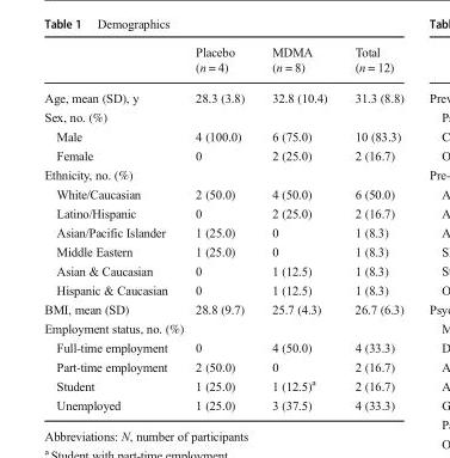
<table><thead><tr><td></td><td>Placebo (n = 4)</td><td>MDMA (n = 8)</td><td>Total (n = 12)</td></tr></thead><tbody><tr><td>Age, mean (SD), y</td><td>28.3 (3.8)</td><td>32.8 (10.4)</td><td>31.3 (8.8)</td></tr><tr><td colspan="4">Sex, no. (%)</td></tr><tr><td>Male</td><td>4 (100.0)</td><td>6 (75.0)</td><td>10 (83.3)</td></tr><tr><td>Female</td><td>0</td><td>2 (25.0)</td><td>2 (16.7)</td></tr><tr><td colspan="4">Ethnicity, no. (%)</td></tr><tr><td>White/Caucasian</td><td>2 (50.0)</td><td>4 (50.0)</td><td>6 (50.0)</td></tr><tr><td>Latino/Hispanic</td><td>0</td><td>2 (25.0)</td><td>2 (16.7)</td></tr><tr><td>Asian/Pacific Islander</td><td>1 (25.0)</td><td>0</td><td>1 (8.3)</td></tr><tr><td>Middle Eastern</td><td>1 (25.0)</td><td>0</td><td>1 (8.3)</td></tr><tr><td>Asian &amp; Caucasian</td><td>0</td><td>1 (12.5)</td><td>1 (8.3)</td></tr><tr><td>Hispanic &amp; Caucasian</td><td>0</td><td>1 (12.5)</td><td>1 (8.3)</td></tr><tr><td>BMI, mean (SD)</td><td>28.8 (9.7)</td><td>25.7 (4.3)</td><td>26.7 (6.3)</td></tr><tr><td colspan="4">Employment status, no. (%)</td></tr><tr><td>Full-time employment</td><td>0</td><td>4 (50.0)</td><td>4 (33.3)</td></tr><tr><td>Part-time employment</td><td>2 (50.0)</td><td>0</td><td>2 (16.7)</td></tr><tr><td>Student</td><td>1 (25.0)</td><td>1 (12.5)<sup>a</sup></td><td>2 (16.7)</td></tr><tr><td>Unemployed</td><td>1 (25.0)</td><td>3 (37.5)</td><td>4 (33.3)</td></tr></tbody></table>